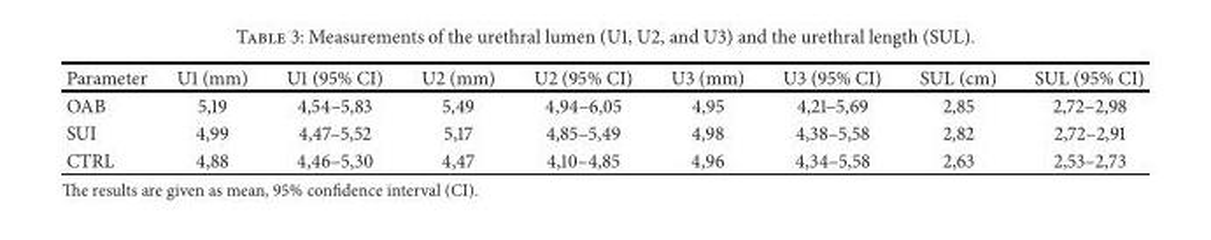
<table><thead><tr><td>Parameter</td><td>U1 (mm)</td><td>U1 (95% CI)</td><td>U2 (mm)</td><td>U2 (95% CI)</td><td>U3 (mm)</td><td>U3 (95% CI)</td><td>SUL (cm)</td><td>SUL (95% CI)</td></tr></thead><tbody><tr><td>OAB</td><td>5,19</td><td>4,54–5,83</td><td>5,49</td><td>4,94–6,05</td><td>4,95</td><td>4,21–5,69</td><td>2,85</td><td>2,72–2,98</td></tr><tr><td>SUI</td><td>4,99</td><td>4,47–5,52</td><td>5,17</td><td>4,85–5,49</td><td>4,98</td><td>4,38–5,58</td><td>2,82</td><td>2,72–2,91</td></tr><tr><td>CTRL</td><td>4,88</td><td>4,46–5,30</td><td>4,47</td><td>4,10–4,85</td><td>4,96</td><td>4,34–5,58</td><td>2,63</td><td>2,53–2,73</td></tr></tbody></table>